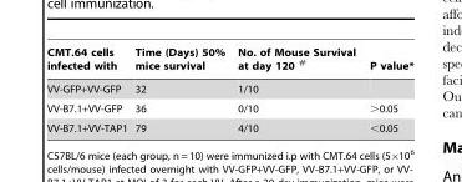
<table><thead><tr><td>CMT.64 cells infected with</td><td>Time (Days) 50% mice survival</td><td>No. of Mouse Survival at day 120 #</td><td>P value*</td></tr></thead><tbody><tr><td>VV-GFP+VV-GFP</td><td>32</td><td>1/10</td><td></td></tr><tr><td>VV-B7.1+VV-GFP</td><td>36</td><td>0/10</td><td>&gt;0.05</td></tr><tr><td>VV-B7.1+VV-TAP1</td><td>79</td><td>4/10</td><td>&lt;0.05</td></tr></tbody></table>